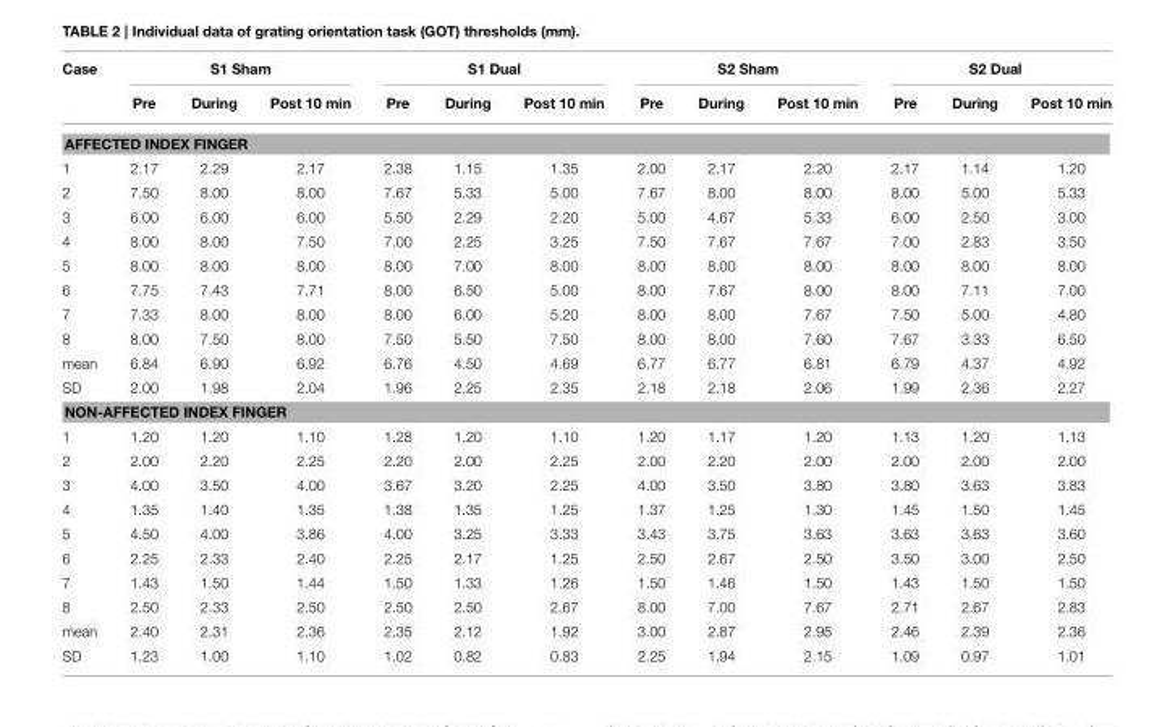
<table><thead><tr><td rowspan="2">Case</td><td colspan="3">S1 Sham</td><td colspan="3">S1 Dual</td><td colspan="3">S2 Sham</td><td colspan="3">S2 Dual</td></tr><tr><td>Pre</td><td>During</td><td>Post 10 min</td><td>Pre</td><td>During</td><td>Post 10 min</td><td>Pre</td><td>During</td><td>Post 10 min</td><td>Pre</td><td>During</td><td>Post 10 min</td></tr></thead><tbody><tr><td colspan="13">AFFECTED INDEX FINGER</td></tr><tr><td>1</td><td>2.17</td><td>2.29</td><td>2.17</td><td>2.38</td><td>1.15</td><td>1.35</td><td>2.00</td><td>2.17</td><td>2.20</td><td>2.17</td><td>1.14</td><td>1.20</td></tr><tr><td>2</td><td>7.50</td><td>8.00</td><td>8.00</td><td>7.67</td><td>5.33</td><td>5.00</td><td>7.67</td><td>8.00</td><td>8.00</td><td>8.00</td><td>5.00</td><td>5.33</td></tr><tr><td>3</td><td>6.00</td><td>6.00</td><td>6.00</td><td>5.50</td><td>2.29</td><td>2.20</td><td>5.00</td><td>4.67</td><td>5.33</td><td>6.00</td><td>2.50</td><td>3.00</td></tr><tr><td>4</td><td>8.00</td><td>8.00</td><td>7.50</td><td>7.00</td><td>2.25</td><td>3.25</td><td>7.50</td><td>7.67</td><td>7.67</td><td>7.00</td><td>2.83</td><td>3.50</td></tr><tr><td>5</td><td>8.00</td><td>8.00</td><td>8.00</td><td>8.00</td><td>7.00</td><td>8.00</td><td>8.00</td><td>8.00</td><td>8.00</td><td>8.00</td><td>8.00</td><td>8.00</td></tr><tr><td>6</td><td>7.75</td><td>7.43</td><td>7.71</td><td>8.00</td><td>6.50</td><td>5.00</td><td>8.00</td><td>7.67</td><td>8.00</td><td>8.00</td><td>7.11</td><td>7.00</td></tr><tr><td>7</td><td>7.33</td><td>8.00</td><td>8.00</td><td>8.00</td><td>6.00</td><td>5.20</td><td>8.00</td><td>8.00</td><td>7.67</td><td>7.50</td><td>5.00</td><td>4.80</td></tr><tr><td>8</td><td>8.00</td><td>7.50</td><td>8.00</td><td>7.50</td><td>5.50</td><td>7.50</td><td>8.00</td><td>8.00</td><td>7.60</td><td>7.67</td><td>3.33</td><td>6.50</td></tr><tr><td>mean</td><td>6.84</td><td>6.90</td><td>6.92</td><td>6.76</td><td>4.50</td><td>4.69</td><td>6.77</td><td>6.77</td><td>6.81</td><td>6.79</td><td>4.37</td><td>4.92</td></tr><tr><td>SD</td><td>2.00</td><td>1.98</td><td>2.04</td><td>1.96</td><td>2.25</td><td>2.35</td><td>2.18</td><td>2.18</td><td>2.06</td><td>1.99</td><td>2.36</td><td>2.27</td></tr><tr><td colspan="13">NON-AFFECTED INDEX FINGER</td></tr><tr><td>1</td><td>1.20</td><td>1.20</td><td>1.10</td><td>1.28</td><td>1.20</td><td>1.10</td><td>1.20</td><td>1.17</td><td>1.20</td><td>1.13</td><td>1.20</td><td>1.13</td></tr><tr><td>2</td><td>2.00</td><td>2.20</td><td>2.25</td><td>2.20</td><td>2.00</td><td>2.25</td><td>2.00</td><td>2.20</td><td>2.00</td><td>2.00</td><td>2.00</td><td>2.00</td></tr><tr><td>3</td><td>4.00</td><td>3.50</td><td>4.00</td><td>3.67</td><td>3.20</td><td>2.25</td><td>4.00</td><td>3.50</td><td>3.80</td><td>3.80</td><td>3.63</td><td>3.83</td></tr><tr><td>4</td><td>1.35</td><td>1.40</td><td>1.35</td><td>1.38</td><td>1.35</td><td>1.25</td><td>1.37</td><td>1.25</td><td>1.30</td><td>1.45</td><td>1.50</td><td>1.45</td></tr><tr><td>5</td><td>4.50</td><td>4.00</td><td>3.86</td><td>4.00</td><td>3.25</td><td>3.33</td><td>3.43</td><td>3.75</td><td>3.63</td><td>3.63</td><td>3.63</td><td>3.60</td></tr><tr><td>6</td><td>2.25</td><td>2.33</td><td>2.40</td><td>2.25</td><td>2.17</td><td>1.25</td><td>2.50</td><td>2.67</td><td>2.50</td><td>3.50</td><td>3.00</td><td>2.50</td></tr><tr><td>7</td><td>1.43</td><td>1.50</td><td>1.44</td><td>1.50</td><td>1.33</td><td>1.26</td><td>1.50</td><td>1.46</td><td>1.50</td><td>1.43</td><td>1.50</td><td>1.50</td></tr><tr><td>8</td><td>2.50</td><td>2.33</td><td>2.50</td><td>2.50</td><td>2.50</td><td>2.67</td><td>8.00</td><td>7.00</td><td>7.67</td><td>2.71</td><td>2.67</td><td>2.83</td></tr><tr><td>mean</td><td>2.40</td><td>2.31</td><td>2.36</td><td>2.35</td><td>2.12</td><td>1.92</td><td>3.00</td><td>2.87</td><td>2.95</td><td>2.46</td><td>2.39</td><td>2.36</td></tr><tr><td>SD</td><td>1.23</td><td>1.00</td><td>1.10</td><td>1.02</td><td>0.82</td><td>0.83</td><td>2.25</td><td>1.94</td><td>2.15</td><td>1.09</td><td>0.97</td><td>1.01</td></tr></tbody></table>